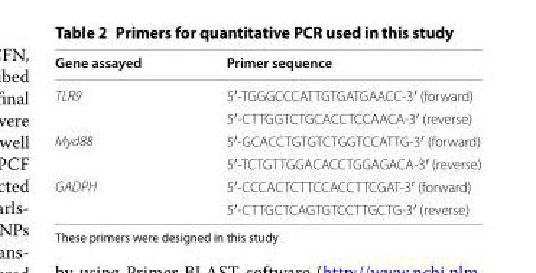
<table><thead><tr><td>Gene assayed</td><td>Primer sequence</td></tr></thead><tbody><tr><td rowspan="2">TLR9</td><td>5′-TGGGCCCATTGTGATGAACC-3′ (forward)</td></tr><tr><td>5′-CTTGGTCTGCACCTCCAACA-3′ (reverse)</td></tr><tr><td rowspan="2">Myd88</td><td>5′-GCACCTGTGTCTGGTCCATTG-3′ (forward)</td></tr><tr><td>5′-TCTGTTGGACACCTGGAGACA-3′ (reverse)</td></tr><tr><td rowspan="2">GADPH</td><td>5′-CCCACTCTTCCACCTTCGAT-3′ (forward)</td></tr><tr><td>5′-CTTGCTCAGTGTCCTTGCTG-3′ (reverse)</td></tr></tbody></table>